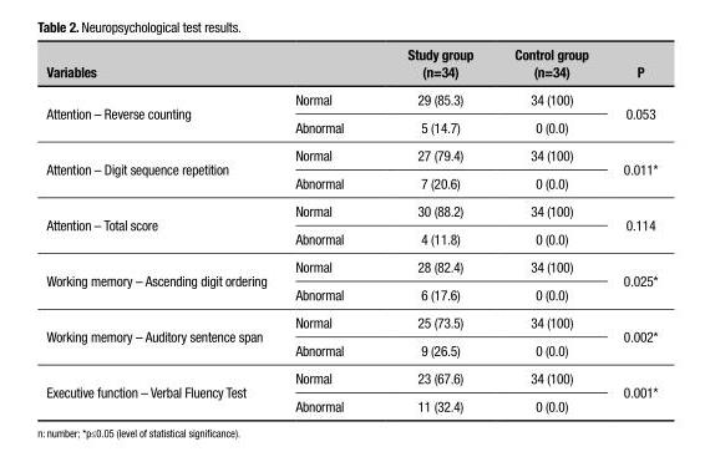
<table><thead><tr><td>Variables</td><td></td><td>Study group (n=34)</td><td>Control group (n=34)</td><td>P</td></tr></thead><tbody><tr><td rowspan="2">Attention – Reverse counting</td><td>Normal</td><td>29 (85.3)</td><td>34 (100)</td><td rowspan="2">0.053</td></tr><tr><td>Abnormal</td><td>5 (14.7)</td><td>0 (0.0)</td></tr><tr><td rowspan="2">Attention – Digit sequence repetition</td><td>Normal</td><td>27 (79.4)</td><td>34 (100)</td><td rowspan="2">0.011*</td></tr><tr><td>Abnormal</td><td>7 (20.6)</td><td>0 (0.0)</td></tr><tr><td rowspan="2">Attention – Total score</td><td>Normal</td><td>30 (88.2)</td><td>34 (100)</td><td rowspan="2">0.114</td></tr><tr><td>Abnormal</td><td>4 (11.8)</td><td>0 (0.0)</td></tr><tr><td rowspan="2">Working memory – Ascending digit ordering</td><td>Normal</td><td>28 (82.4)</td><td>34 (100)</td><td rowspan="2">0.025*</td></tr><tr><td>Abnormal</td><td>6 (17.6)</td><td>0 (0.0)</td></tr><tr><td rowspan="2">Working memory – Auditory sentence span</td><td>Normal</td><td>25 (73.5)</td><td>34 (100)</td><td rowspan="2">0.002*</td></tr><tr><td>Abnormal</td><td>9 (26.5)</td><td>0 (0.0)</td></tr><tr><td rowspan="2">Executive function – Verbal Fluency Test</td><td>Normal</td><td>23 (67.6)</td><td>34 (100)</td><td rowspan="2">0.001*</td></tr><tr><td>Abnormal</td><td>11 (32.4)</td><td>0 (0.0)</td></tr></tbody></table>